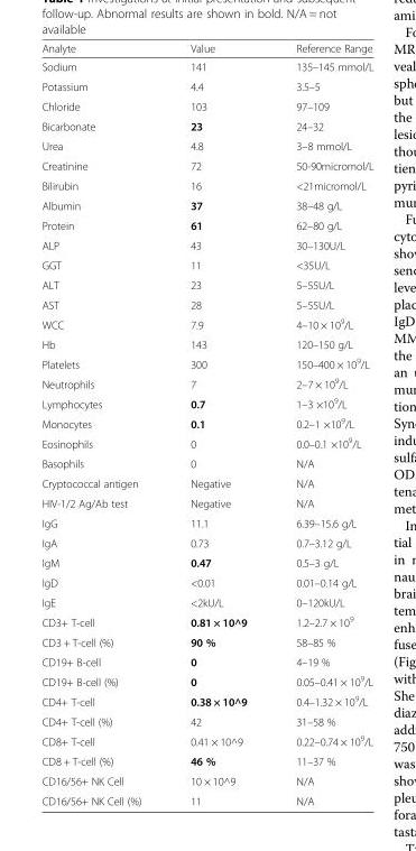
<table><thead><tr><td>Analyte</td><td>Value</td><td>Reference Range</td></tr></thead><tbody><tr><td>Sodium</td><td>141</td><td>135–145 mmol/L</td></tr><tr><td>Potassium</td><td>4.4</td><td>3.5–5</td></tr><tr><td>Chloride</td><td>103</td><td>97–109</td></tr><tr><td>Bicarbonate</td><td>23</td><td>24–32</td></tr><tr><td>Urea</td><td>4.8</td><td>3–8 mmol/L</td></tr><tr><td>Creatinine</td><td>72</td><td>50-90micromol/L</td></tr><tr><td>Bilirubin</td><td>16</td><td>&lt;21micromol/L</td></tr><tr><td>Albumin</td><td>37</td><td>38–48 g/L</td></tr><tr><td>Protein</td><td>61</td><td>62–80 g/L</td></tr><tr><td>ALP</td><td>43</td><td>30–130U/L</td></tr><tr><td>GGT</td><td>11</td><td>&lt;35U/L</td></tr><tr><td>ALT</td><td>23</td><td>5–55U/L</td></tr><tr><td>AST</td><td>28</td><td>5–55U/L</td></tr><tr><td>WCC</td><td>7.9</td><td>4–10 × 10<sup>9</sup>/L</td></tr><tr><td>Hb</td><td>143</td><td>120–150 g/L</td></tr><tr><td>Platelets</td><td>300</td><td>150–400 × 10<sup>9</sup>/L</td></tr><tr><td>Neutrophils</td><td>7</td><td>2–7 × 10<sup>9</sup>/L</td></tr><tr><td>Lymphocytes</td><td>0.7</td><td>1–3 ×10<sup>9</sup>/L</td></tr><tr><td>Monocytes</td><td>0.1</td><td>0.2–1 ×10<sup>9</sup>/L</td></tr><tr><td>Eosinophils</td><td>0</td><td>0.0–0.1 ×10<sup>9</sup>/L</td></tr><tr><td>Basophils</td><td>0</td><td>N/A</td></tr><tr><td>Cryptococcal antigen</td><td>Negative</td><td>N/A</td></tr><tr><td>HIV-1/2 Ag/Ab test</td><td>Negative</td><td>N/A</td></tr><tr><td>IgG</td><td>11.1</td><td>6.39–15.6 g/L</td></tr><tr><td>IgA</td><td>0.73</td><td>0.7–3.12 g/L</td></tr><tr><td>IgM</td><td>0.47</td><td>0.5–3 g/L</td></tr><tr><td>IgD</td><td>&lt;0.01</td><td>0.01–0.14 g/L</td></tr><tr><td>IgE</td><td>&lt;2kU/L</td><td>0–120kU/L</td></tr><tr><td>CD3+ T-cell</td><td>0.81 × 10^9</td><td>1.2–2.7 × 10<sup>9</sup></td></tr><tr><td>CD3 + T-cell (%)</td><td>90 %</td><td>58–85 %</td></tr><tr><td>CD19+ B-cell</td><td>0</td><td>4–19 %</td></tr><tr><td>CD19+ B-cell (%)</td><td>0</td><td>0.05–0.41 × 10<sup>9</sup>/L</td></tr><tr><td>CD4+ T-cell</td><td>0.38 × 10^9</td><td>0.4–1.32 × 10<sup>9</sup>/L</td></tr><tr><td>CD4+ T-cell (%)</td><td>42</td><td>31–58 %</td></tr><tr><td>CD8+ T-cell</td><td>0.41 × 10^9</td><td>0.22–0.74 × 10<sup>9</sup>/L</td></tr><tr><td>CD8 + T-cell (%)</td><td>46 %</td><td>11–37 %</td></tr><tr><td>CD16/56+ NK Cell</td><td>10 × 10^9</td><td>N/A</td></tr><tr><td>CD16/56+ NK Cell (%)</td><td>11</td><td>N/A</td></tr></tbody></table>